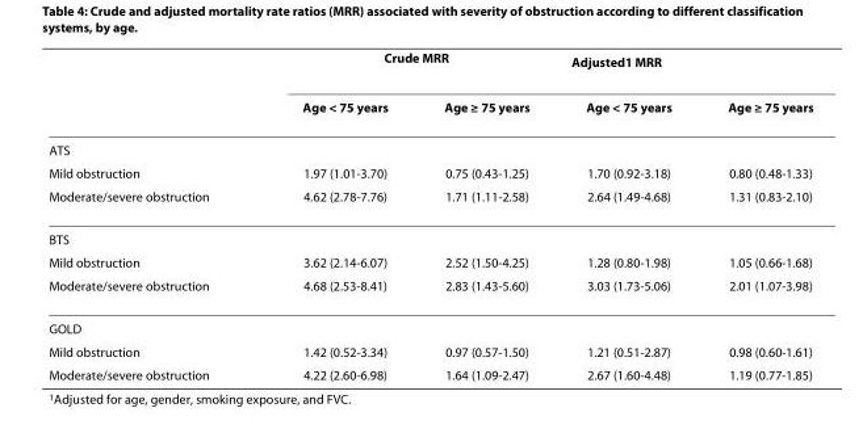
<table><thead><tr><td rowspan="2"></td><td colspan="2">Crude MRR</td><td colspan="2">Adjusted<sup>1</sup> MRR</td></tr><tr><td>Age &lt; 75 years</td><td>Age ≥ 75 years</td><td>Age &lt; 75 years</td><td>Age ≥ 75 years</td></tr></thead><tbody><tr><td colspan="5">ATS</td></tr><tr><td>Mild obstruction</td><td>1.97 (1.01-3.70)</td><td>0.75 (0.43-1.25)</td><td>1.70 (0.92-3.18)</td><td>0.80 (0.48-1.33)</td></tr><tr><td>Moderate/severe obstruction</td><td>4.62 (2.78-7.76)</td><td>1.71 (1.11-2.58)</td><td>2.64 (1.49-4.68)</td><td>1.31 (0.83-2.10)</td></tr><tr><td colspan="5">BTS</td></tr><tr><td>Mild obstruction</td><td>3.62 (2.14-6.07)</td><td>2.52 (1.50-4.25)</td><td>1.28 (0.80-1.98)</td><td>1.05 (0.66-1.68)</td></tr><tr><td>Moderate/severe obstruction</td><td>4.68 (2.53-8.41)</td><td>2.83 (1.43-5.60)</td><td>3.03 (1.73-5.06)</td><td>2.01 (1.07-3.98)</td></tr><tr><td colspan="5">GOLD</td></tr><tr><td>Mild obstruction</td><td>1.42 (0.52-3.34)</td><td>0.97 (0.57-1.50)</td><td>1.21 (0.51-2.87)</td><td>0.98 (0.60-1.61)</td></tr><tr><td>Moderate/severe obstruction</td><td>4.22 (2.60-6.98)</td><td>1.64 (1.09-2.47)</td><td>2.67 (1.60-4.48)</td><td>1.19 (0.77-1.85)</td></tr></tbody></table>